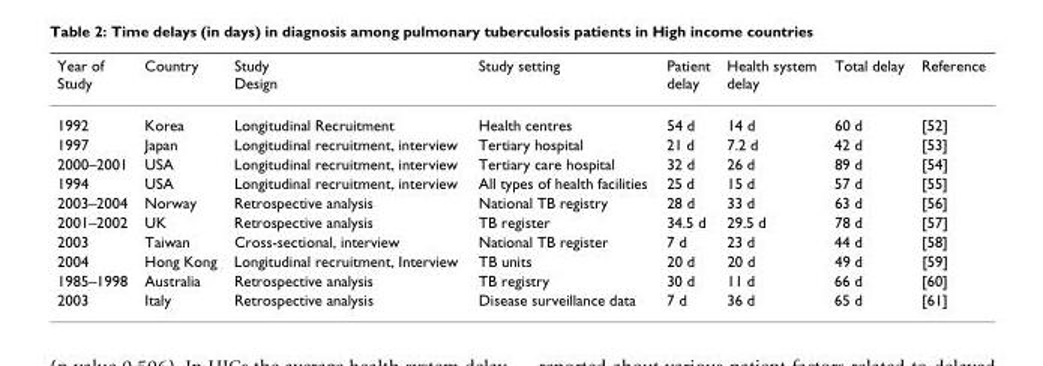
<table><thead><tr><td>Year of Study</td><td>Country</td><td>Study Design</td><td>Study setting</td><td>Patient delay</td><td>Health system delay</td><td>Total delay</td><td>Reference</td></tr></thead><tbody><tr><td>1992</td><td>Korea</td><td>Longitudinal Recruitment</td><td>Health centres</td><td>54 d</td><td>14 d</td><td>60 d</td><td>[52]</td></tr><tr><td>1997</td><td>Japan</td><td>Longitudinal recruitment, interview</td><td>Tertiary hospital</td><td>21 d</td><td>7.2 d</td><td>42 d</td><td>[53]</td></tr><tr><td>2000–2001</td><td>USA</td><td>Longitudinal recruitment, interview</td><td>Tertiary care hospital</td><td>32 d</td><td>26 d</td><td>89 d</td><td>[54]</td></tr><tr><td>1994</td><td>USA</td><td>Longitudinal recruitment, interview</td><td>All types of health facilities</td><td>25 d</td><td>15 d</td><td>57 d</td><td>[55]</td></tr><tr><td>2003–2004</td><td>Norway</td><td>Retrospective analysis</td><td>National TB registry</td><td>28 d</td><td>33 d</td><td>63 d</td><td>[56]</td></tr><tr><td>2001–2002</td><td>UK</td><td>Retrospective analysis</td><td>TB register</td><td>34.5 d</td><td>29.5 d</td><td>78 d</td><td>[57]</td></tr><tr><td>2003</td><td>Taiwan</td><td>Cross-sectional, interview</td><td>National TB register</td><td>7 d</td><td>23 d</td><td>44 d</td><td>[58]</td></tr><tr><td>2004</td><td>Hong Kong</td><td>Longitudinal recruitment, Interview</td><td>TB units</td><td>20 d</td><td>20 d</td><td>49 d</td><td>[59]</td></tr><tr><td>1985–1998</td><td>Australia</td><td>Retrospective analysis</td><td>TB registry</td><td>30 d</td><td>11 d</td><td>66 d</td><td>[60]</td></tr><tr><td>2003</td><td>Italy</td><td>Retrospective analysis</td><td>Disease surveillance data</td><td>7 d</td><td>36 d</td><td>65 d</td><td>[61]</td></tr></tbody></table>